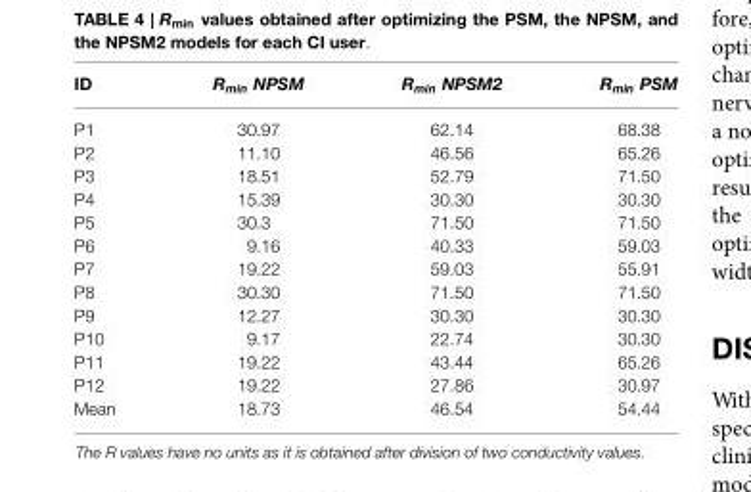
<table><thead><tr><td>ID</td><td>R<sub>min</sub> NPSM</td><td>R<sub>min</sub> NPSM2</td><td>R<sub>min</sub> PSM</td></tr></thead><tbody><tr><td>P1</td><td>30.97</td><td>62.14</td><td>68.38</td></tr><tr><td>P2</td><td>11.10</td><td>46.56</td><td>65.26</td></tr><tr><td>P3</td><td>18.51</td><td>52.79</td><td>71.50</td></tr><tr><td>P4</td><td>15.39</td><td>30.30</td><td>30.30</td></tr><tr><td>P5</td><td>30.3</td><td>71.50</td><td>71.50</td></tr><tr><td>P6</td><td>9.16</td><td>40.33</td><td>59.03</td></tr><tr><td>P7</td><td>19.22</td><td>59.03</td><td>55.91</td></tr><tr><td>P8</td><td>30.30</td><td>71.50</td><td>71.50</td></tr><tr><td>P9</td><td>12.27</td><td>30.30</td><td>30.30</td></tr><tr><td>P10</td><td>9.17</td><td>22.74</td><td>30.30</td></tr><tr><td>P11</td><td>19.22</td><td>43.44</td><td>65.26</td></tr><tr><td>P12</td><td>19.22</td><td>27.86</td><td>30.97</td></tr><tr><td>Mean</td><td>18.73</td><td>46.54</td><td>54.44</td></tr></tbody></table>